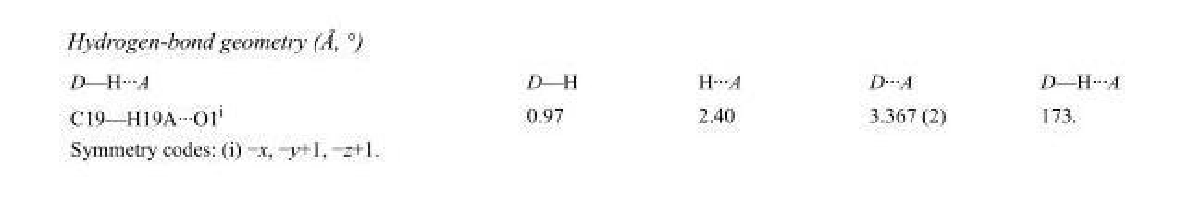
<table><tbody><tr><td>D—H···A</td><td>D—H</td><td>H···A</td><td>D···A</td><td>D—H···A</td></tr><tr><td>C19—H19A···O1<sup>i</sup></td><td>0.97</td><td>2.40</td><td>3.367 (2)</td><td>173.</td></tr></tbody></table>